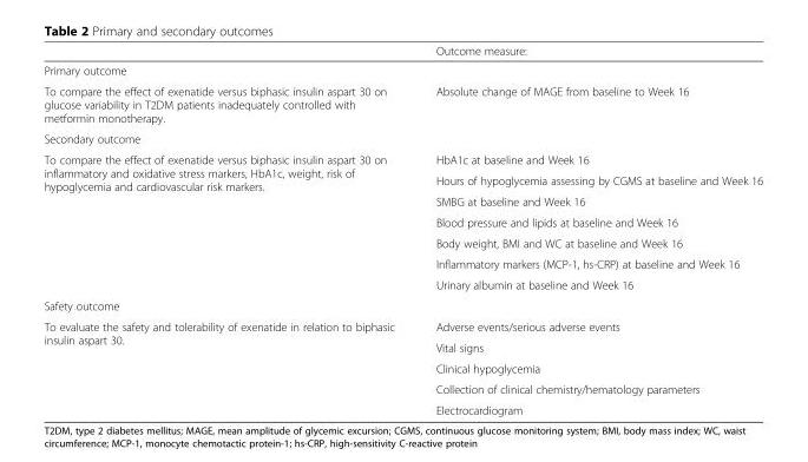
<table><thead><tr><td></td><td>Outcome measure:</td></tr></thead><tbody><tr><td colspan="2">Primary outcome</td></tr><tr><td>To compare the effect of exenatide versus biphasic insulin aspart 30 on glucose variability in T2DM patients inadequately controlled with metformin monotherapy.</td><td>Absolute change of MAGE from baseline to Week 16</td></tr><tr><td colspan="2">Secondary outcome</td></tr><tr><td rowspan="7">To compare the effect of exenatide versus biphasic insulin aspart 30 on inflammatory and oxidative stress markers, HbA1c, weight, risk of hypoglycemia and cardiovascular risk markers.</td><td>HbA1c at baseline and Week 16</td></tr><tr><td>Hours of hypoglycemia assessing by CGMS at baseline and Week 16</td></tr><tr><td>SMBG at baseline and Week 16</td></tr><tr><td>Blood pressure and lipids at baseline and Week 16</td></tr><tr><td>Body weight, BMI and WC at baseline and Week 16</td></tr><tr><td>Inflammatory markers (MCP-1, hs-CRP) at baseline and Week 16</td></tr><tr><td>Urinary albumin at baseline and Week 16</td></tr><tr><td colspan="2">Safety outcome</td></tr><tr><td rowspan="5">To evaluate the safety and tolerability of exenatide in relation to biphasic insulin aspart 30.</td><td>Adverse events/serious adverse events</td></tr><tr><td>Vital signs</td></tr><tr><td>Clinical hypoglycemia</td></tr><tr><td>Collection of clinical chemistry/hematology parameters</td></tr><tr><td>Electrocardiogram</td></tr></tbody></table>